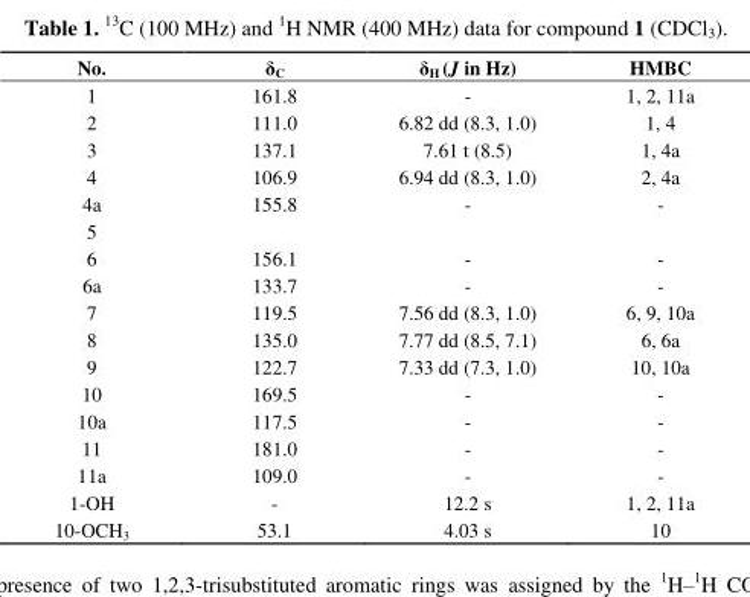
<table><thead><tr><td>No.</td><td>δ<sub>C</sub></td><td>δ<sub>H</sub> (J in Hz)</td><td>HMBC</td></tr></thead><tbody><tr><td>1</td><td>161.8</td><td>-</td><td>1, 2, 11a</td></tr><tr><td>2</td><td>111.0</td><td>6.82 dd (8.3, 1.0)</td><td>1, 4</td></tr><tr><td>3</td><td>137.1</td><td>7.61 t (8.5)</td><td>1, 4a</td></tr><tr><td>4</td><td>106.9</td><td>6.94 dd (8.3, 1.0)</td><td>2, 4a</td></tr><tr><td>4a</td><td>155.8</td><td>-</td><td>-</td></tr><tr><td colspan="4">5</td></tr><tr><td>6</td><td>156.1</td><td>-</td><td>-</td></tr><tr><td>6a</td><td>133.7</td><td>-</td><td>-</td></tr><tr><td>7</td><td>119.5</td><td>7.56 dd (8.3, 1.0)</td><td>6, 9, 10a</td></tr><tr><td>8</td><td>135.0</td><td>7.77 dd (8.5, 7.1)</td><td>6, 6a</td></tr><tr><td>9</td><td>122.7</td><td>7.33 dd (7.3, 1.0)</td><td>10, 10a</td></tr><tr><td>10</td><td>169.5</td><td>-</td><td>-</td></tr><tr><td>10a</td><td>117.5</td><td>-</td><td>-</td></tr><tr><td>11</td><td>181.0</td><td>-</td><td>-</td></tr><tr><td>11a</td><td>109.0</td><td>-</td><td>-</td></tr><tr><td>1-OH</td><td>-</td><td>12.2 s</td><td>1, 2, 11a</td></tr><tr><td>10-OCH<sub>3</sub></td><td>53.1</td><td>4.03 s</td><td>10</td></tr></tbody></table>